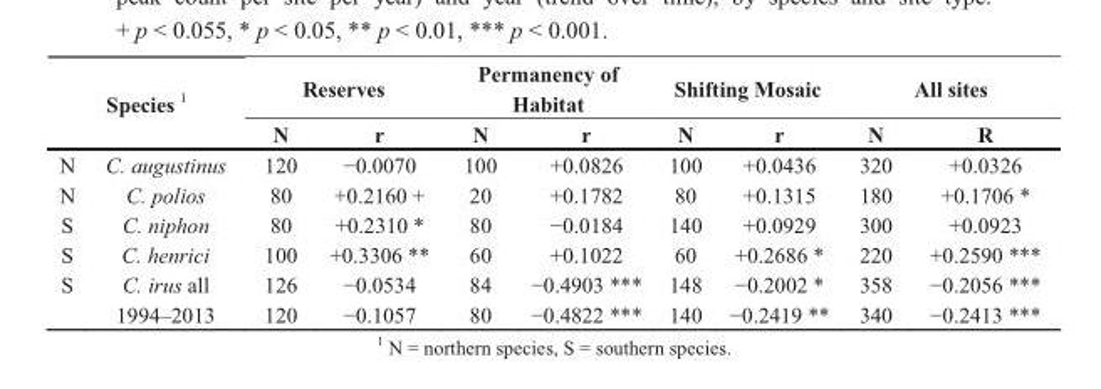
<table><thead><tr><td rowspan="2" colspan="2">Species <sup>1</sup></td><td colspan="2">Reserves</td><td colspan="2">Permanency of Habitat</td><td colspan="2">Shifting Mosaic</td><td colspan="2">All sites</td></tr><tr><td rowspan="2">N 120</td><td rowspan="2">r −0.0070</td><td rowspan="2">N 100</td><td rowspan="2">r +0.0826</td><td rowspan="2">N 100</td><td rowspan="2">r +0.0436</td><td rowspan="2">N 320</td><td rowspan="2">R +0.0326</td></tr><tr><td>N</td><td>C. augustinus</td></tr></thead><tbody><tr><td>N</td><td>C. polios</td><td>80</td><td>+0.2160 +</td><td>20</td><td>+0.1782</td><td>80</td><td>+0.1315</td><td>180</td><td>+0.1706 *</td></tr><tr><td>S</td><td>C. niphon</td><td>80</td><td>+0.2310 *</td><td>80</td><td>−0.0184</td><td>140</td><td>+0.0929</td><td>300</td><td>+0.0923</td></tr><tr><td>S</td><td>C. henrici</td><td>100</td><td>+0.3306 **</td><td>60</td><td>+0.1022</td><td>60</td><td>+0.2686 *</td><td>220</td><td>+0.2590 ***</td></tr><tr><td rowspan="2">S</td><td>C. irus all</td><td>126</td><td>−0.0534</td><td>84</td><td>−0.4903 ***</td><td>148</td><td>−0.2002 *</td><td>358</td><td>−0.2056 ***</td></tr><tr><td>1994–2013</td><td>120</td><td>−0.1057</td><td>80</td><td>−0.4822 ***</td><td>140</td><td>−0.2419 **</td><td>340</td><td>−0.2413 ***</td></tr></tbody></table>